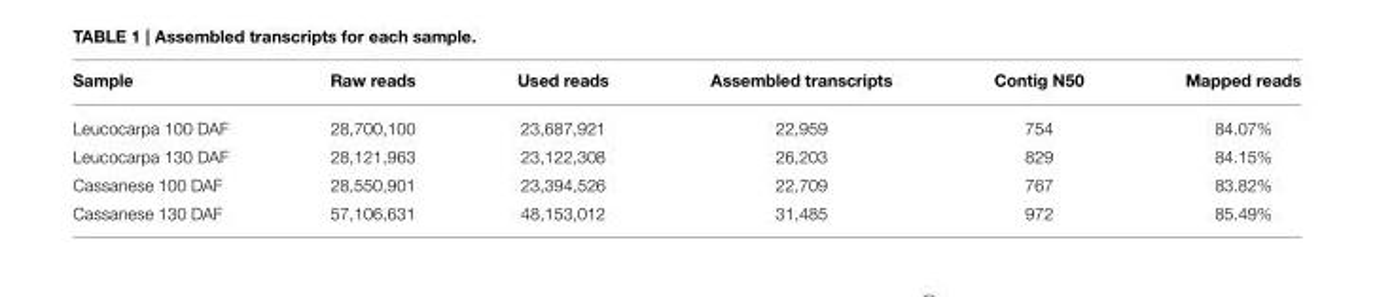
<table><thead><tr><td>Sample</td><td>Raw reads</td><td>Used reads</td><td>Assembled transcripts</td><td>Contig N50</td><td>Mapped reads</td></tr></thead><tbody><tr><td>Leucocarpa 100 DAF</td><td>28,700,100</td><td>23,687,921</td><td>22,959</td><td>754</td><td>84.07%</td></tr><tr><td>Leucocarpa 130 DAF</td><td>28,121,963</td><td>23,122,308</td><td>26,203</td><td>829</td><td>84.15%</td></tr><tr><td>Cassanese 100 DAF</td><td>28,550,901</td><td>23,394,526</td><td>22,709</td><td>767</td><td>83.82%</td></tr><tr><td>Cassanese 130 DAF</td><td>57,106,631</td><td>48,153,012</td><td>31,485</td><td>972</td><td>85.49%</td></tr></tbody></table>